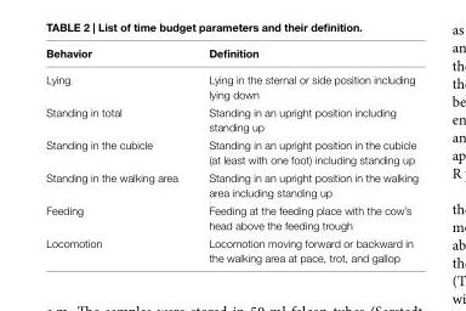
<table><thead><tr><td>Behavior</td><td>Definition</td></tr></thead><tbody><tr><td>Lying</td><td>Lying in the sternal or side position including lying down</td></tr><tr><td>Standing in total</td><td>Standing in an upright position including standing up</td></tr><tr><td>Standing in the cubicle</td><td>Standing in an upright position in the cubicle (at least with one foot) including standing up</td></tr><tr><td>Standing in the walking area</td><td>Standing in an upright position in the walking area including standing up</td></tr><tr><td>Feeding</td><td>Feeding at the feeding place with the cow’s head above the feeding trough</td></tr><tr><td>Locomotion</td><td>Locomotion moving forward or backward in the walking area at pace, trot, and gallop</td></tr></tbody></table>